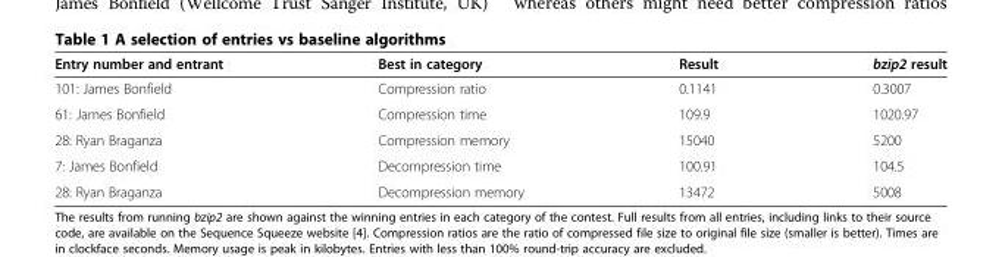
<table><thead><tr><td>Entry number and entrant</td><td>Best in category</td><td>Result</td><td>bzip2 result</td></tr></thead><tbody><tr><td>101: James Bonfield</td><td>Compression ratio</td><td>0.1141</td><td>0.3007</td></tr><tr><td>61: James Bonfield</td><td>Compression time</td><td>109.9</td><td>1020.97</td></tr><tr><td>28: Ryan Braganza</td><td>Compression memory</td><td>15040</td><td>5200</td></tr><tr><td>7: James Bonfield</td><td>Decompression time</td><td>100.91</td><td>104.5</td></tr><tr><td>28: Ryan Braganza</td><td>Decompression memory</td><td>13472</td><td>5008</td></tr></tbody></table>